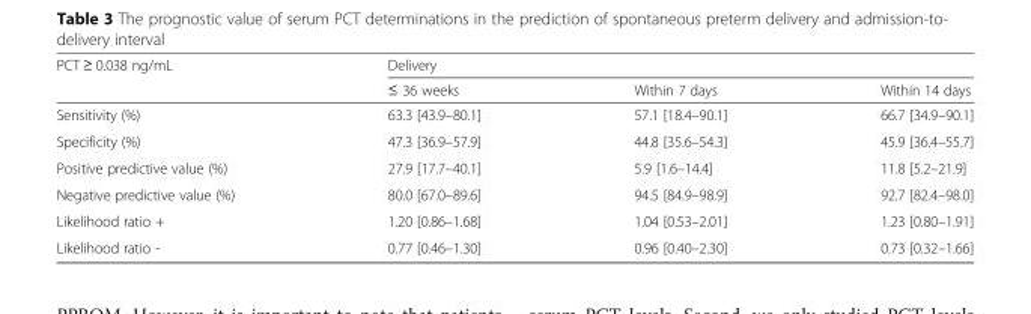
<table><thead><tr><td rowspan="2">PCT ≥ 0.038 ng/mL</td><td colspan="3">Delivery</td></tr><tr><td>≤ 36 weeks</td><td>Within 7 days</td><td>Within 14 days</td></tr></thead><tbody><tr><td>Sensitivity (%)</td><td>63.3 [43.9–80.1]</td><td>57.1 [18.4–90.1]</td><td>66.7 [34.9–90.1]</td></tr><tr><td>Specificity (%)</td><td>47.3 [36.9–57.9]</td><td>44.8 [35.6–54.3]</td><td>45.9 [36.4–55.7]</td></tr><tr><td>Positive predictive value (%)</td><td>27.9 [17.7–40.1]</td><td>5.9 [1.6–14.4]</td><td>11.8 [5.2–21.9]</td></tr><tr><td>Negative predictive value (%)</td><td>80.0 [67.0–89.6]</td><td>94.5 [84.9–98.9]</td><td>92.7 [82.4–98.0]</td></tr><tr><td>Likelihood ratio +</td><td>1.20 [0.86–1.68]</td><td>1.04 [0.53–2.01]</td><td>1.23 [0.80–1.91]</td></tr><tr><td>Likelihood ratio -</td><td>0.77 [0.46–1.30]</td><td>0.96 [0.40–2.30]</td><td>0.73 [0.32–1.66]</td></tr></tbody></table>